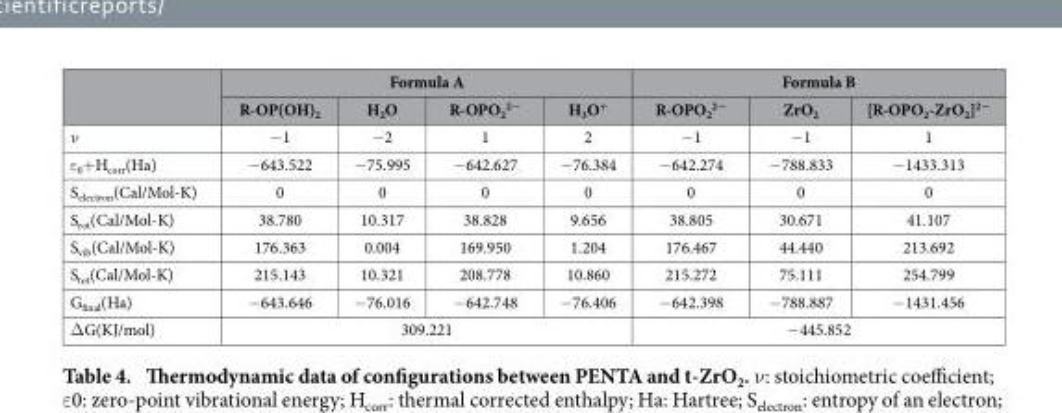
<table><thead><tr><td rowspan="2"></td><td colspan="4">Formula A</td><td colspan="3">Formula B</td></tr><tr><td>R-OP(OH)<sub>2</sub></td><td>H<sub>2</sub>O</td><td>R-OPO<sub>2</sub> <sup>2−</sup></td><td>H<sub>3</sub>O<sup>+</sup></td><td>R-OPO<sub>2</sub> <sup>2−</sup></td><td>ZrO<sub>2</sub></td><td>[R-OPO<sub>2</sub>-ZrO<sub>2</sub>]<sup>2−</sup></td></tr></thead><tbody><tr><td>ν</td><td>− 1</td><td>− 2</td><td>1</td><td>2</td><td>− 1</td><td>− 1</td><td>1</td></tr><tr><td>ε <sub>0</sub>+ H<sub>corr</sub>(Ha)</td><td>− 643.522</td><td>− 75.995</td><td>− 642.627</td><td>− 76.384</td><td>− 642.274</td><td>− 788.833</td><td>− 1433.313</td></tr><tr><td>S<sub>electron</sub>(Cal/Mol-K)</td><td>0</td><td>0</td><td>0</td><td>0</td><td>0</td><td>0</td><td>0</td></tr><tr><td>S<sub>rot</sub>(Cal/Mol-K)</td><td>38.780</td><td>10.317</td><td>38.828</td><td>9.656</td><td>38.805</td><td>30.671</td><td>41.107</td></tr><tr><td>S<sub>vib</sub>(Cal/Mol-K)</td><td>176.363</td><td>0.004</td><td>169.950</td><td>1.204</td><td>176.467</td><td>44.440</td><td>213.692</td></tr><tr><td>S<sub>tot</sub>(Cal/Mol-K)</td><td>215.143</td><td>10.321</td><td>208.778</td><td>10.860</td><td>215.272</td><td>75.111</td><td>254.799</td></tr><tr><td>G<sub>final</sub>(Ha)</td><td>− 643.646</td><td>− 76.016</td><td>− 642.748</td><td>− 76.406</td><td>− 642.398</td><td>− 788.887</td><td>− 1431.456</td></tr><tr><td>Δ G(KJ/mol)</td><td colspan="4">309.221</td><td colspan="3">− 445.852</td></tr></tbody></table>